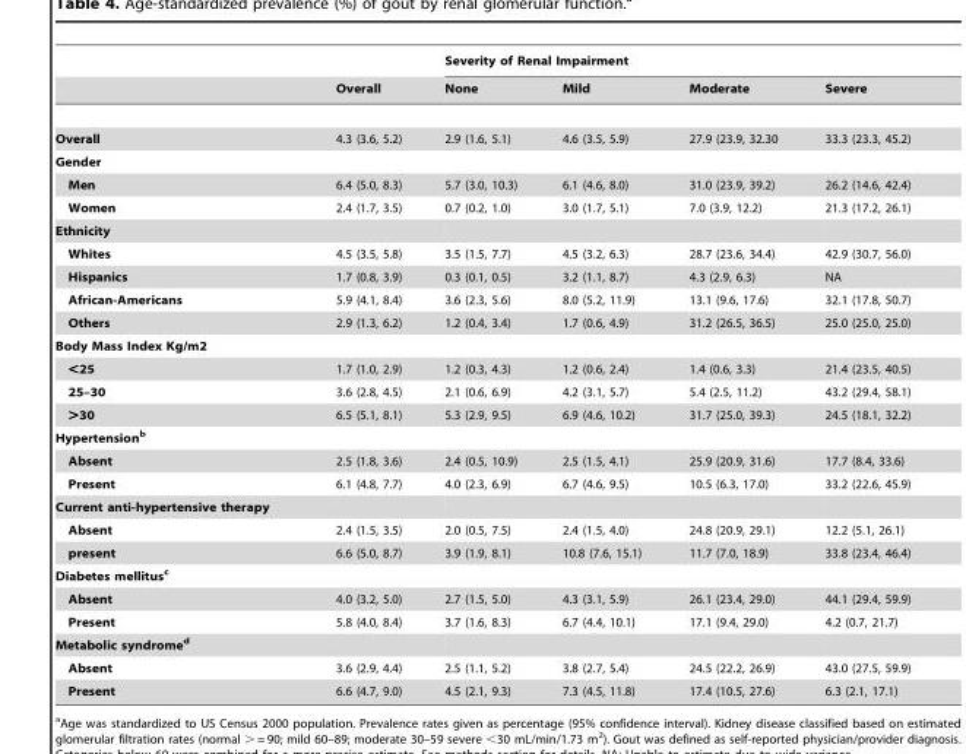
<table><thead><tr><td rowspan="2"></td><td rowspan="2">Overall</td><td colspan="4">Severity of Renal Impairment</td></tr><tr><td>None</td><td>Mild</td><td>Moderate</td><td>Severe</td></tr></thead><tbody><tr><td>Overall</td><td>4.3 (3.6, 5.2)</td><td>2.9 (1.6, 5.1)</td><td>4.6 (3.5, 5.9)</td><td>27.9 (23.9, 32.30</td><td>33.3 (23.3, 45.2)</td></tr><tr><td colspan="6">Gender</td></tr><tr><td>Men</td><td>6.4 (5.0, 8.3)</td><td>5.7 (3.0, 10.3)</td><td>6.1 (4.6, 8.0)</td><td>31.0 (23.9, 39.2)</td><td>26.2 (14.6, 42.4)</td></tr><tr><td>Women</td><td>2.4 (1.7, 3.5)</td><td>0.7 (0.2, 1.0)</td><td>3.0 (1.7, 5.1)</td><td>7.0 (3.9, 12.2)</td><td>21.3 (17.2, 26.1)</td></tr><tr><td colspan="6">Ethnicity</td></tr><tr><td>Whites</td><td>4.5 (3.5, 5.8)</td><td>3.5 (1.5, 7.7)</td><td>4.5 (3.2, 6.3)</td><td>28.7 (23.6, 34.4)</td><td>42.9 (30.7, 56.0)</td></tr><tr><td>Hispanics</td><td>1.7 (0.8, 3.9)</td><td>0.3 (0.1, 0.5)</td><td>3.2 (1.1, 8.7)</td><td>4.3 (2.9, 6.3)</td><td>NA</td></tr><tr><td>African-Americans</td><td>5.9 (4.1, 8.4)</td><td>3.6 (2.3, 5.6)</td><td>8.0 (5.2, 11.9)</td><td>13.1 (9.6, 17.6)</td><td>32.1 (17.8, 50.7)</td></tr><tr><td>Others</td><td>2.9 (1.3, 6.2)</td><td>1.2 (0.4, 3.4)</td><td>1.7 (0.6, 4.9)</td><td>31.2 (26.5, 36.5)</td><td>25.0 (25.0, 25.0)</td></tr><tr><td colspan="6">Body Mass Index Kg/m2</td></tr><tr><td>&lt;25</td><td>1.7 (1.0, 2.9)</td><td>1.2 (0.3, 4.3)</td><td>1.2 (0.6, 2.4)</td><td>1.4 (0.6, 3.3)</td><td>21.4 (23.5, 40.5)</td></tr><tr><td>25–30</td><td>3.6 (2.8, 4.5)</td><td>2.1 (0.6, 6.9)</td><td>4.2 (3.1, 5.7)</td><td>5.4 (2.5, 11.2)</td><td>43.2 (29.4, 58.1)</td></tr><tr><td>&gt;30</td><td>6.5 (5.1, 8.1)</td><td>5.3 (2.9, 9.5)</td><td>6.9 (4.6, 10.2)</td><td>31.7 (25.0, 39.3)</td><td>24.5 (18.1, 32.2)</td></tr><tr><td colspan="6">Hypertensionb</td></tr><tr><td>Absent</td><td>2.5 (1.8, 3.6)</td><td>2.4 (0.5, 10.9)</td><td>2.5 (1.5, 4.1)</td><td>25.9 (20.9, 31.6)</td><td>17.7 (8.4, 33.6)</td></tr><tr><td>Present</td><td>6.1 (4.8, 7.7)</td><td>4.0 (2.3, 6.9)</td><td>6.7 (4.6, 9.5)</td><td>10.5 (6.3, 17.0)</td><td>33.2 (22.6, 45.9)</td></tr><tr><td colspan="6">Current anti-hypertensive therapy</td></tr><tr><td>Absent</td><td>2.4 (1.5, 3.5)</td><td>2.0 (0.5, 7.5)</td><td>2.4 (1.5, 4.0)</td><td>24.8 (20.9, 29.1)</td><td>12.2 (5.1, 26.1)</td></tr><tr><td>present</td><td>6.6 (5.0, 8.7)</td><td>3.9 (1.9, 8.1)</td><td>10.8 (7.6, 15.1)</td><td>11.7 (7.0, 18.9)</td><td>33.8 (23.4, 46.4)</td></tr><tr><td colspan="6">Diabetes mellitusc</td></tr><tr><td>Absent</td><td>4.0 (3.2, 5.0)</td><td>2.7 (1.5, 5.0)</td><td>4.3 (3.1, 5.9)</td><td>26.1 (23.4, 29.0)</td><td>44.1 (29.4, 59.9)</td></tr><tr><td>Present</td><td>5.8 (4.0, 8.4)</td><td>3.7 (1.6, 8.3)</td><td>6.7 (4.4, 10.1)</td><td>17.1 (9.4, 29.0)</td><td>4.2 (0.7, 21.7)</td></tr><tr><td colspan="6">Metabolic syndromed</td></tr><tr><td>Absent</td><td>3.6 (2.9, 4.4)</td><td>2.5 (1.1, 5.2)</td><td>3.8 (2.7, 5.4)</td><td>24.5 (22.2, 26.9)</td><td>43.0 (27.5, 59.9)</td></tr><tr><td>Present</td><td>6.6 (4.7, 9.0)</td><td>4.5 (2.1, 9.3)</td><td>7.3 (4.5, 11.8)</td><td>17.4 (10.5, 27.6)</td><td>6.3 (2.1, 17.1)</td></tr></tbody></table>